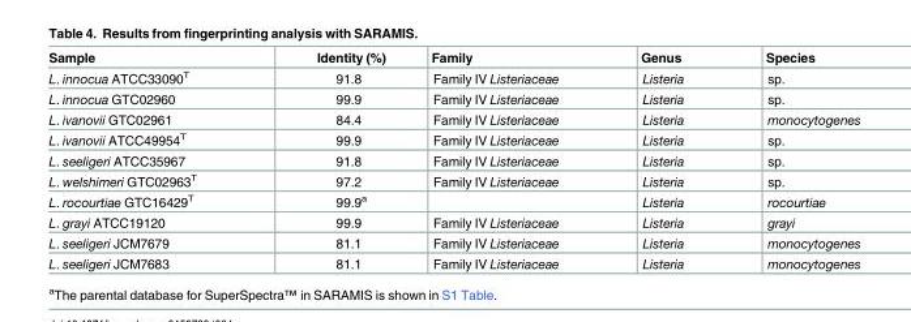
<table><thead><tr><td>Sample</td><td>Identity (%)</td><td>Family</td><td>Genus</td><td>Species</td></tr></thead><tbody><tr><td>L. innocua ATCC33090<sup>T</sup></td><td>91.8</td><td>Family IV Listeriaceae</td><td>Listeria</td><td>sp.</td></tr><tr><td>L. innocua GTC02960</td><td>99.9</td><td>Family IV Listeriaceae</td><td>Listeria</td><td>sp.</td></tr><tr><td>L. ivanovii GTC02961</td><td>84.4</td><td>Family IV Listeriaceae</td><td>Listeria</td><td>monocytogenes</td></tr><tr><td>L. ivanovii ATCC49954<sup>T</sup></td><td>99.9</td><td>Family IV Listeriaceae</td><td>Listeria</td><td>sp.</td></tr><tr><td>L. seeligeri ATCC35967</td><td>91.8</td><td>Family IV Listeriaceae</td><td>Listeria</td><td>sp.</td></tr><tr><td>L. welshimeri GTC02963<sup>T</sup></td><td>97.2</td><td>Family IV Listeriaceae</td><td>Listeria</td><td>sp.</td></tr><tr><td>L. rocourtiae GTC16429<sup>T</sup></td><td>99.9<sup>a</sup></td><td></td><td>Listeria</td><td>rocourtiae</td></tr><tr><td>L. grayi ATCC19120</td><td>99.9</td><td>Family IV Listeriaceae</td><td>Listeria</td><td>grayi</td></tr><tr><td>L. seeligeri JCM7679</td><td>81.1</td><td>Family IV Listeriaceae</td><td>Listeria</td><td>monocytogenes</td></tr><tr><td>L. seeligeri JCM7683</td><td>81.1</td><td>Family IV Listeriaceae</td><td>Listeria</td><td>monocytogenes</td></tr></tbody></table>